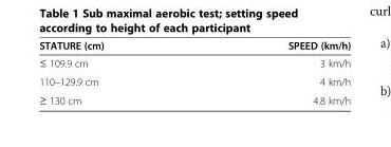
<table><thead><tr><td>STATURE (cm)</td><td>SPEED (km/h)</td></tr></thead><tbody><tr><td>≤ 109.9 cm</td><td>3 km/h</td></tr><tr><td>110–129.9 cm</td><td>4 km/h</td></tr><tr><td>≥ 130 cm</td><td>4.8 km/h</td></tr></tbody></table>